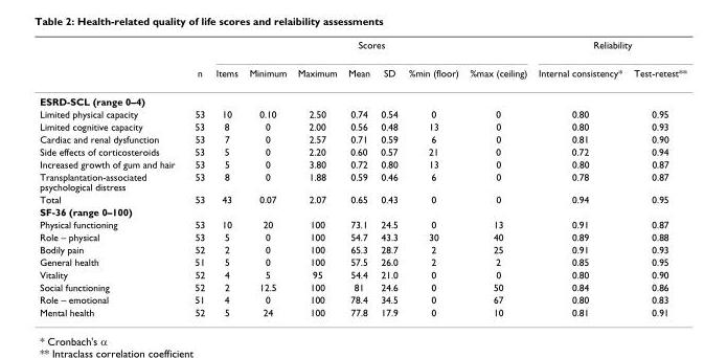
<table><thead><tr><td rowspan="2"></td><td rowspan="2">n</td><td colspan="7">Scores</td><td colspan="2">Reliability</td></tr><tr><td>Items</td><td>Minimum</td><td>Maximum</td><td>Mean</td><td>SD</td><td>%min (floor)</td><td>%max (ceiling)</td><td>Internal consistency*</td><td>Test-retest**</td></tr></thead><tbody><tr><td colspan="11">ESRD-SCL (range 0–4)</td></tr><tr><td>Limited physical capacity</td><td>53</td><td>10</td><td>0.10</td><td>2.50</td><td>0.74</td><td>0.54</td><td>0</td><td>0</td><td>0.80</td><td>0.95</td></tr><tr><td>Limited cognitive capacity</td><td>53</td><td>8</td><td>0</td><td>2.00</td><td>0.56</td><td>0.48</td><td>13</td><td>0</td><td>0.80</td><td>0.93</td></tr><tr><td>Cardiac and renal dysfunction</td><td>53</td><td>7</td><td>0</td><td>2.57</td><td>0.71</td><td>0.59</td><td>6</td><td>0</td><td>0.81</td><td>0.90</td></tr><tr><td>Side effects of corticosteroids</td><td>53</td><td>5</td><td>0</td><td>2.20</td><td>0.60</td><td>0.57</td><td>21</td><td>0</td><td>0.72</td><td>0.94</td></tr><tr><td>Increased growth of gum and hair</td><td>53</td><td>5</td><td>0</td><td>3.80</td><td>0.72</td><td>0.80</td><td>13</td><td>0</td><td>0.80</td><td>0.87</td></tr><tr><td>Transplantation-associated psychological distress</td><td>53</td><td>8</td><td>0</td><td>1.88</td><td>0.59</td><td>0.46</td><td>6</td><td>0</td><td>0.78</td><td>0.87</td></tr><tr><td>Total</td><td>53</td><td>43</td><td>0.07</td><td>2.07</td><td>0.65</td><td>0.43</td><td>0</td><td>0</td><td>0.94</td><td>0.95</td></tr><tr><td colspan="11">SF-36 (range 0–100)</td></tr><tr><td>Physical functioning</td><td>53</td><td>10</td><td>20</td><td>100</td><td>73.1</td><td>24.5</td><td>0</td><td>13</td><td>0.91</td><td>0.87</td></tr><tr><td>Role – physical</td><td>53</td><td>5</td><td>0</td><td>100</td><td>54.7</td><td>43.3</td><td>30</td><td>40</td><td>0.89</td><td>0.88</td></tr><tr><td>Bodily pain</td><td>52</td><td>2</td><td>0</td><td>100</td><td>65.3</td><td>28.7</td><td>2</td><td>25</td><td>0.91</td><td>0.93</td></tr><tr><td>General health</td><td>51</td><td>5</td><td>0</td><td>100</td><td>57.5</td><td>26.0</td><td>2</td><td>2</td><td>0.85</td><td>0.95</td></tr><tr><td>Vitality</td><td>52</td><td>4</td><td>5</td><td>95</td><td>54.4</td><td>21.0</td><td>0</td><td>0</td><td>0.80</td><td>0.90</td></tr><tr><td>Social functioning</td><td>52</td><td>2</td><td>12.5</td><td>100</td><td>81</td><td>24.6</td><td>0</td><td>50</td><td>0.84</td><td>0.86</td></tr><tr><td>Role – emotional</td><td>51</td><td>4</td><td>0</td><td>100</td><td>78.4</td><td>34.5</td><td>0</td><td>67</td><td>0.80</td><td>0.83</td></tr><tr><td>Mental health</td><td>52</td><td>5</td><td>24</td><td>100</td><td>77.8</td><td>17.9</td><td>0</td><td>10</td><td>0.81</td><td>0.91</td></tr></tbody></table>